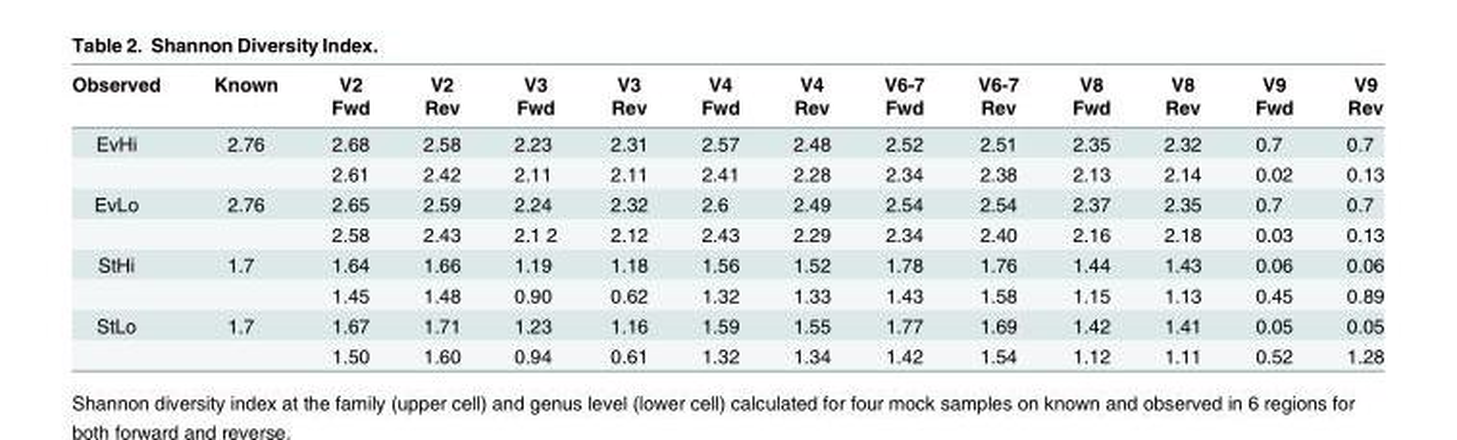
<table><thead><tr><td rowspan="2">Observed</td><td rowspan="2">Known</td><td rowspan="2">V2 Fwd</td><td rowspan="2">V2 Rev</td><td rowspan="2">V3 Fwd</td><td rowspan="2">V3 Rev</td><td rowspan="2">V4 Fwd</td><td rowspan="2">V4 Rev</td><td rowspan="2">V6-7 Fwd</td><td rowspan="2">V6-7 Rev</td><td rowspan="2">V8 Fwd</td><td rowspan="2">V8 Rev</td><td rowspan="2">V9 Fwd</td><td rowspan="2">V9 Rev</td></tr><tr></tr></thead><tbody><tr><td rowspan="2">EvHi</td><td>2.76</td><td>2.68</td><td>2.58</td><td>2.23</td><td>2.31</td><td>2.57</td><td>2.48</td><td>2.52</td><td>2.51</td><td>2.35</td><td>2.32</td><td>0.7</td><td>0.7</td></tr><tr><td></td><td>2.61</td><td>2.42</td><td>2.11</td><td>2.11</td><td>2.41</td><td>2.28</td><td>2.34</td><td>2.38</td><td>2.13</td><td>2.14</td><td>0.02</td><td>0.13</td></tr><tr><td rowspan="2">EvLo</td><td>2.76</td><td>2.65</td><td>2.59</td><td>2.24</td><td>2.32</td><td>2.6</td><td>2.49</td><td>2.54</td><td>2.54</td><td>2.37</td><td>2.35</td><td>0.7</td><td>0.7</td></tr><tr><td></td><td>2.58</td><td>2.43</td><td>2.1 2</td><td>2.12</td><td>2.43</td><td>2.29</td><td>2.34</td><td>2.40</td><td>2.16</td><td>2.18</td><td>0.03</td><td>0.13</td></tr><tr><td rowspan="2">StHi</td><td>1.7</td><td>1.64</td><td>1.66</td><td>1.19</td><td>1.18</td><td>1.56</td><td>1.52</td><td>1.78</td><td>1.76</td><td>1.44</td><td>1.43</td><td>0.06</td><td>0.06</td></tr><tr><td></td><td>1.45</td><td>1.48</td><td>0.90</td><td>0.62</td><td>1.32</td><td>1.33</td><td>1.43</td><td>1.58</td><td>1.15</td><td>1.13</td><td>0.45</td><td>0.89</td></tr><tr><td rowspan="2">StLo</td><td>1.7</td><td>1.67</td><td>1.71</td><td>1.23</td><td>1.16</td><td>1.59</td><td>1.55</td><td>1.77</td><td>1.69</td><td>1.42</td><td>1.41</td><td>0.05</td><td>0.05</td></tr><tr><td></td><td>1.50</td><td>1.60</td><td>0.94</td><td>0.61</td><td>1.32</td><td>1.34</td><td>1.42</td><td>1.54</td><td>1.12</td><td>1.11</td><td>0.52</td><td>1.28</td></tr></tbody></table>